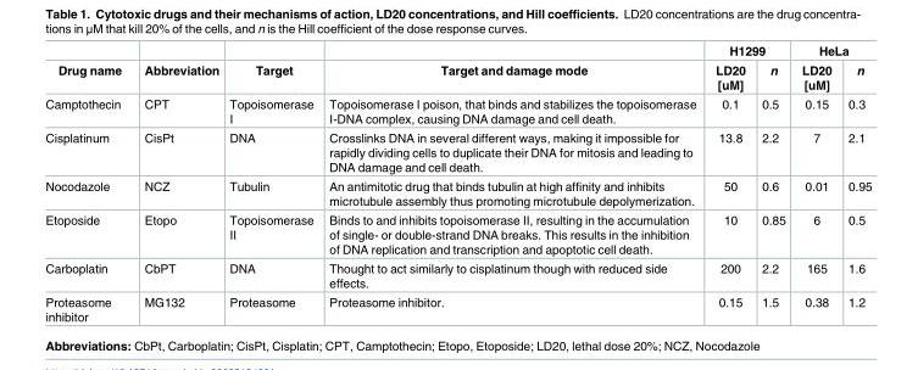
<table><thead><tr><td rowspan="2">Drug name</td><td rowspan="2">Abbreviation</td><td rowspan="2">Target</td><td rowspan="2">Target and damage mode</td><td colspan="2">H1299</td><td colspan="2">HeLa</td></tr><tr><td>LD20 [uM]</td><td>n</td><td>LD20 [uM]</td><td>n</td></tr></thead><tbody><tr><td>Camptothecin</td><td>CPT</td><td>Topoisomerase I</td><td>Topoisomerase I poison, that binds and stabilizes the topoisomerase I-DNA complex, causing DNA damage and cell death.</td><td>0.1</td><td>0.5</td><td>0.15</td><td>0.3</td></tr><tr><td>Cisplatinum</td><td>CisPt</td><td>DNA</td><td>Crosslinks DNA in several different ways, making it impossible for rapidly dividing cells to duplicate their DNA for mitosis and leading to DNA damage and cell death.</td><td>13.8</td><td>2.2</td><td>7</td><td>2.1</td></tr><tr><td>Nocodazole</td><td>NCZ</td><td>Tubulin</td><td>An antimitotic drug that binds tubulin at high affinity and inhibits microtubule assembly thus promoting microtubule depolymerization.</td><td>50</td><td>0.6</td><td>0.01</td><td>0.95</td></tr><tr><td>Etoposide</td><td>Etopo</td><td>Topoisomerase II</td><td>Binds to and inhibits topoisomerase II, resulting in the accumulation of single- or double-strand DNA breaks. This results in the inhibition of DNA replication and transcription and apoptotic cell death.</td><td>10</td><td>0.85</td><td>6</td><td>0.5</td></tr><tr><td>Carboplatin</td><td>CbPT</td><td>DNA</td><td>Thought to act similarly to cisplatinum though with reduced side effects.</td><td>200</td><td>2.2</td><td>165</td><td>1.6</td></tr><tr><td>Proteasome inhibitor</td><td>MG132</td><td>Proteasome</td><td>Proteasome inhibitor.</td><td>0.15</td><td>1.5</td><td>0.38</td><td>1.2</td></tr></tbody></table>